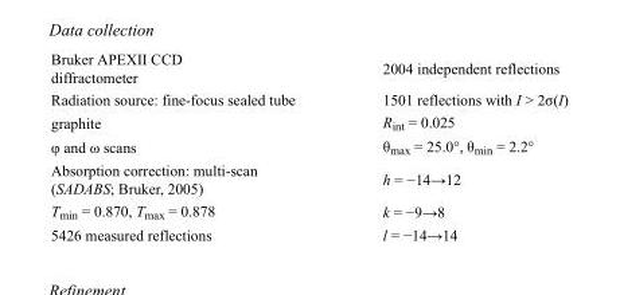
<table><tbody><tr><td>Bruker APEXII CCD diffractometer</td><td>2004 independent reflections</td></tr><tr><td>Radiation source: fine-focus sealed tube</td><td>1501 reflections with I &gt; 2σ(I)</td></tr><tr><td>graphite</td><td>R<sub>int</sub> = 0.025</td></tr><tr><td>φ and ω scans</td><td>θ<sub>max</sub> = 25.0°, θ<sub>min</sub> = 2.2°</td></tr><tr><td>Absorption correction: multi-scan (SADABS; Bruker, 2005)</td><td>h = −14→12</td></tr><tr><td>T<sub>min</sub> = 0.870, T<sub>max</sub> = 0.878</td><td>k = −9→8</td></tr><tr><td>5426 measured reflections</td><td>l = −14→14</td></tr></tbody></table>